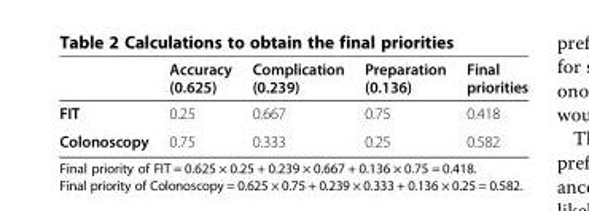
<table><thead><tr><td></td><td>Accuracy (0.625)</td><td>Complication (0.239)</td><td>Preparation (0.136)</td><td>Final priorities</td></tr></thead><tbody><tr><td>FIT</td><td>0.25</td><td>0.667</td><td>0.75</td><td>0.418</td></tr><tr><td>Colonoscopy</td><td>0.75</td><td>0.333</td><td>0.25</td><td>0.582</td></tr></tbody></table>